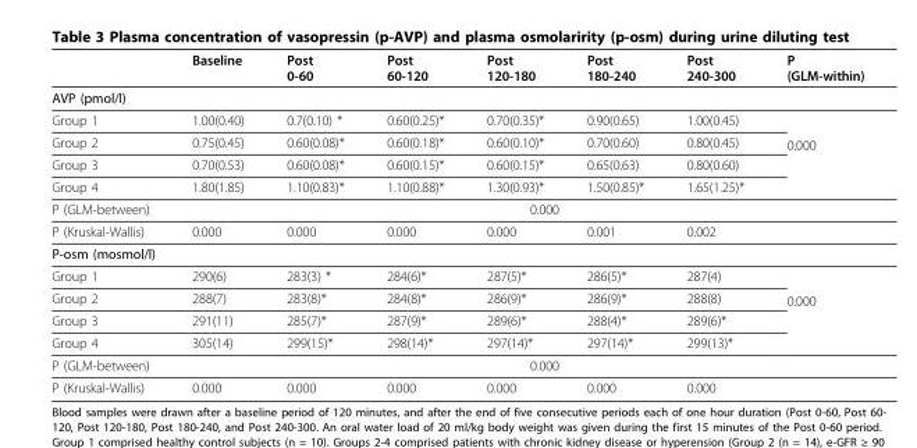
<table><thead><tr><td></td><td>Baseline</td><td>Post 0-60</td><td>Post 60-120</td><td>Post 120-180</td><td>Post 180-240</td><td>Post 240-300</td><td>P (GLM-within)</td></tr></thead><tbody><tr><td colspan="8">AVP (pmol/l)</td></tr><tr><td>Group 1</td><td>1.00(0.40)</td><td>0.7(0.10) *</td><td>0.60(0.25)*</td><td>0.70(0.35)*</td><td>0.90(0.65)</td><td>1.00(0.45)</td><td rowspan="4">0.000</td></tr><tr><td>Group 2</td><td>0.75(0.45)</td><td>0.60(0.08)*</td><td>0.60(0.18)*</td><td>0.60(0.10)*</td><td>0.70(0.60)</td><td>0.80(0.45)</td></tr><tr><td>Group 3</td><td>0.70(0.53)</td><td>0.60(0.08)*</td><td>0.60(0.15)*</td><td>0.60(0.15)*</td><td>0.65(0.63)</td><td>0.80(0.60)</td></tr><tr><td>Group 4</td><td>1.80(1.85)</td><td>1.10(0.83)*</td><td>1.10(0.88)*</td><td>1.30(0.93)*</td><td>1.50(0.85)*</td><td>1.65(1.25)*</td></tr><tr><td>P (GLM-between)</td><td colspan="7">0.000</td></tr><tr><td>P (Kruskal-Wallis)</td><td>0.000</td><td>0.000</td><td>0.000</td><td>0.000</td><td>0.001</td><td>0.002</td><td></td></tr><tr><td colspan="8">P-osm (mosmol/l)</td></tr><tr><td>Group 1</td><td>290(6)</td><td>283(3) *</td><td>284(6)*</td><td>287(5)*</td><td>286(5)*</td><td>287(4)</td><td rowspan="4">0.000</td></tr><tr><td>Group 2</td><td>288(7)</td><td>283(8)*</td><td>284(8)*</td><td>286(9)*</td><td>286(9)*</td><td>288(8)</td></tr><tr><td>Group 3</td><td>291(11)</td><td>285(7)*</td><td>287(9)*</td><td>289(6)*</td><td>288(4)*</td><td>289(6)*</td></tr><tr><td>Group 4</td><td>305(14)</td><td>299(15)*</td><td>298(14)*</td><td>297(14)*</td><td>297(14)*</td><td>299(13)*</td></tr><tr><td>P (GLM-between)</td><td colspan="7">0.000</td></tr><tr><td>P (Kruskal-Wallis)</td><td>0.000</td><td>0.000</td><td>0.000</td><td>0.000</td><td>0.000</td><td>0.000</td><td></td></tr></tbody></table>